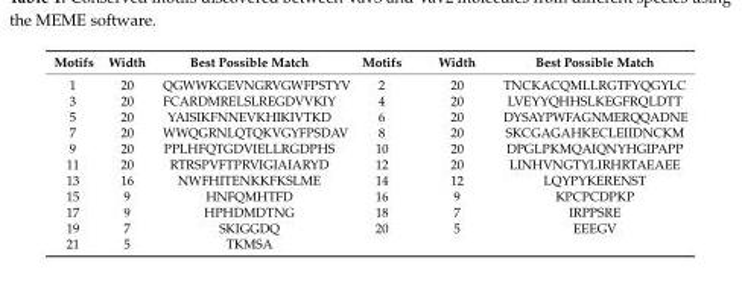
<table><thead><tr><td>Motifs</td><td>Width</td><td>Best Possible Match</td><td>Motifs</td><td>Width</td><td>Best Possible Match</td></tr></thead><tbody><tr><td>1</td><td>20</td><td>QGWWKGEVNGRVGWFPSTYV</td><td>2</td><td>20</td><td>TNCKACQMLLRGTFYQGYLC</td></tr><tr><td>3</td><td>20</td><td>FCARDMRELSLREGDVVKIY</td><td>4</td><td>20</td><td>LVEYYQHHSLKEGFRQLDTT</td></tr><tr><td>5</td><td>20</td><td>YAISIKFNNEVKHIKIVTKD</td><td>6</td><td>20</td><td>DYSAYPWFAGNMERQQADNE</td></tr><tr><td>7</td><td>20</td><td>WWQGRNLQTQKVGYFPSDAV</td><td>8</td><td>20</td><td>SKCGAGAHKECLEIIDNCKM</td></tr><tr><td>9</td><td>20</td><td>PPLHFQTGDVIELLRGDPHS</td><td>10</td><td>20</td><td>DPGLPKMQAIQNYHGIPAPP</td></tr><tr><td>11</td><td>20</td><td>RTRSPVFTPRVIGIAIARYD</td><td>12</td><td>20</td><td>LINHVNGTYLIRHRTAEAEE</td></tr><tr><td>13</td><td>16</td><td>NWFHITENKKFKSLME</td><td>14</td><td>12</td><td>LQYPYKERENST</td></tr><tr><td>15</td><td>9</td><td>HNFQMHTFD</td><td>16</td><td>9</td><td>KPCPCDPKP</td></tr><tr><td>17</td><td>9</td><td>HPHDMDTNG</td><td>18</td><td>7</td><td>IRPPSRE</td></tr><tr><td>19</td><td>7</td><td>SKIGGDQ</td><td>20</td><td>5</td><td>EEEGV</td></tr><tr><td>21</td><td>5</td><td>TKMSA</td><td></td><td></td><td></td></tr></tbody></table>